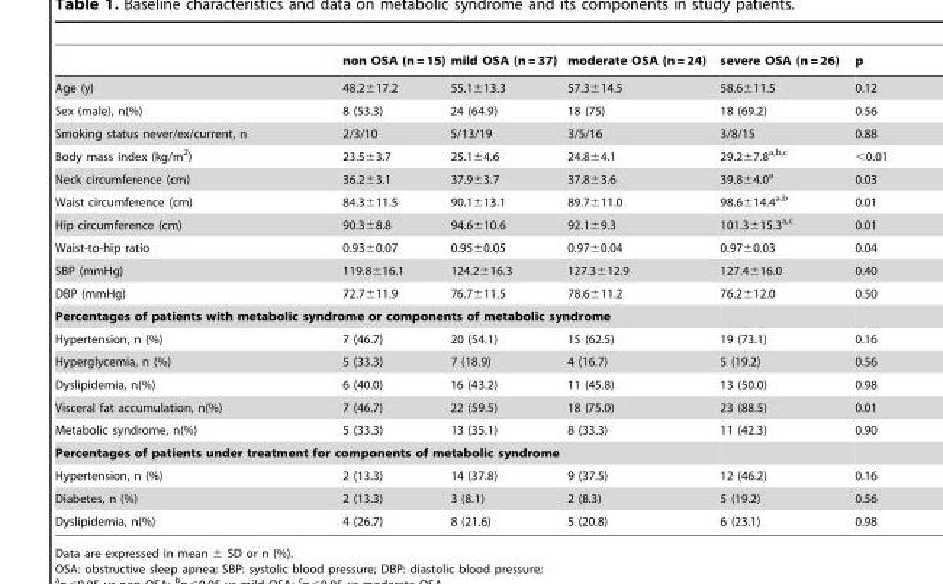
<table><thead><tr><td></td><td>non OSA (n = 15)</td><td>mild OSA (n = 37)</td><td>moderate OSA (n = 24)</td><td>severe OSA (n = 26)</td><td>p</td></tr></thead><tbody><tr><td>Age (y)</td><td>48.2±17.2</td><td>55.1±13.3</td><td>57.3±14.5</td><td>58.6±11.5</td><td>0.12</td></tr><tr><td>Sex (male), n(%)</td><td>8 (53.3)</td><td>24 (64.9)</td><td>18 (75)</td><td>18 (69.2)</td><td>0.56</td></tr><tr><td>Smoking status never/ex/current, n</td><td>2/3/10</td><td>5/13/19</td><td>3/5/16</td><td>3/8/15</td><td>0.88</td></tr><tr><td>Body mass index (kg/m<sup>2</sup>)</td><td>23.5±3.7</td><td>25.1±4.6</td><td>24.8±4.1</td><td>29.2±7.8a,b,c</td><td>&lt;0.01</td></tr><tr><td>Neck circumference (cm)</td><td>36.2±3.1</td><td>37.9±3.7</td><td>37.8±3.6</td><td>39.8±4.0<sup>a</sup></td><td>0.03</td></tr><tr><td>Waist circumference (cm)</td><td>84.3±11.5</td><td>90.1±13.1</td><td>89.7±11.0</td><td>98.6±14.4a,b</td><td>0.01</td></tr><tr><td>Hip circumference (cm)</td><td>90.3±8.8</td><td>94.6±10.6</td><td>92.1±9.3</td><td>101.3±15.3a,c</td><td>0.01</td></tr><tr><td>Waist-to-hip ratio</td><td>0.93±0.07</td><td>0.95±0.05</td><td>0.97±0.04</td><td>0.97±0.03</td><td>0.04</td></tr><tr><td>SBP (mmHg)</td><td>119.8±16.1</td><td>124.2±16.3</td><td>127.3±12.9</td><td>127.4±16.0</td><td>0.40</td></tr><tr><td>DBP (mmHg)</td><td>72.7±11.9</td><td>76.7±11.5</td><td>78.6±11.2</td><td>76.2±12.0</td><td>0.50</td></tr><tr><td colspan="6">Percentages of patients with metabolic syndrome or components of metabolic syndrome</td></tr><tr><td>Hypertension, n (%)</td><td>7 (46.7)</td><td>20 (54.1)</td><td>15 (62.5)</td><td>19 (73.1)</td><td>0.16</td></tr><tr><td>Hyperglycemia, n (%)</td><td>5 (33.3)</td><td>7 (18.9)</td><td>4 (16.7)</td><td>5 (19.2)</td><td>0.56</td></tr><tr><td>Dyslipidemia, n(%)</td><td>6 (40.0)</td><td>16 (43.2)</td><td>11 (45.8)</td><td>13 (50.0)</td><td>0.98</td></tr><tr><td>Visceral fat accumulation, n(%)</td><td>7 (46.7)</td><td>22 (59.5)</td><td>18 (75.0)</td><td>23 (88.5)</td><td>0.01</td></tr><tr><td>Metabolic syndrome, n(%)</td><td>5 (33.3)</td><td>13 (35.1)</td><td>8 (33.3)</td><td>11 (42.3)</td><td>0.90</td></tr><tr><td colspan="6">Percentages of patients under treatment for components of metabolic syndrome</td></tr><tr><td>Hypertension, n (%)</td><td>2 (13.3)</td><td>14 (37.8)</td><td>9 (37.5)</td><td>12 (46.2)</td><td>0.16</td></tr><tr><td>Diabetes, n (%)</td><td>2 (13.3)</td><td>3 (8.1)</td><td>2 (8.3)</td><td>5 (19.2)</td><td>0.56</td></tr><tr><td>Dyslipidemia, n(%)</td><td>4 (26.7)</td><td>8 (21.6)</td><td>5 (20.8)</td><td>6 (23.1)</td><td>0.98</td></tr></tbody></table>